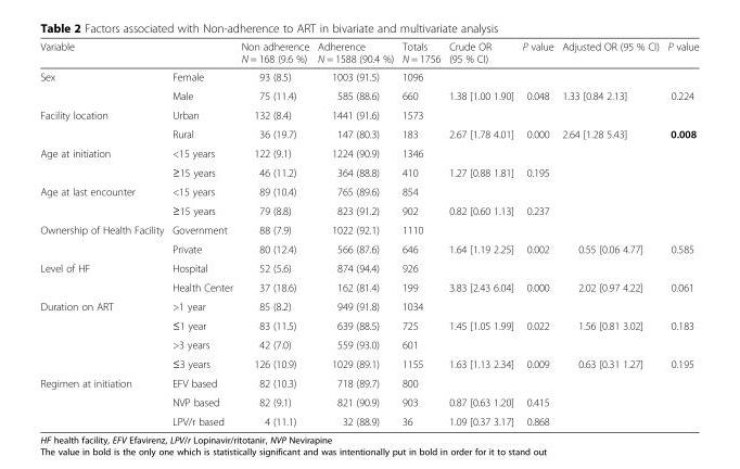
<table><thead><tr><td>Variable</td><td></td><td>Non adherence N = 168 (9.6 %)</td><td>Adherence N = 1588 (90.4 %)</td><td>Totals N = 1756</td><td>Crude OR (95 % CI)</td><td>P value</td><td>Adjusted OR (95 % CI)</td><td>P value</td></tr></thead><tbody><tr><td rowspan="2">Sex</td><td>Female</td><td>93 (8.5)</td><td>1003 (91.5)</td><td>1096</td><td></td><td></td><td></td><td></td></tr><tr><td>Male</td><td>75 (11.4)</td><td>585 (88.6)</td><td>660</td><td>1.38 [1.00 1.90]</td><td>0.048</td><td>1.33 [0.84 2.13]</td><td>0.224</td></tr><tr><td rowspan="2">Facility location</td><td>Urban</td><td>132 (8.4)</td><td>1441 (91.6)</td><td>1573</td><td></td><td></td><td></td><td></td></tr><tr><td>Rural</td><td>36 (19.7)</td><td>147 (80.3)</td><td>183</td><td>2.67 [1.78 4.01]</td><td>0.000</td><td>2.64 [1.28 5.43]</td><td>0.008</td></tr><tr><td rowspan="2">Age at initiation</td><td>&lt;15 years</td><td>122 (9.1)</td><td>1224 (90.9)</td><td>1346</td><td></td><td></td><td></td><td></td></tr><tr><td>≥15 years</td><td>46 (11.2)</td><td>364 (88.8)</td><td>410</td><td>1.27 [0.88 1.81]</td><td>0.195</td><td></td><td></td></tr><tr><td rowspan="2">Age at last encounter</td><td>&lt;15 years</td><td>89 (10.4)</td><td>765 (89.6)</td><td>854</td><td></td><td></td><td></td><td></td></tr><tr><td>≥15 years</td><td>79 (8.8)</td><td>823 (91.2)</td><td>902</td><td>0.82 [0.60 1.13]</td><td>0.237</td><td></td><td></td></tr><tr><td rowspan="2">Ownership of Health Facility</td><td>Government</td><td>88 (7.9)</td><td>1022 (92.1)</td><td>1110</td><td></td><td></td><td></td><td></td></tr><tr><td>Private</td><td>80 (12.4)</td><td>566 (87.6)</td><td>646</td><td>1.64 [1.19 2.25]</td><td>0.002</td><td>0.55 [0.06 4.77]</td><td>0.585</td></tr><tr><td rowspan="2">Level of HF</td><td>Hospital</td><td>52 (5.6)</td><td>874 (94.4)</td><td>926</td><td></td><td></td><td></td><td></td></tr><tr><td>Health Center</td><td>37 (18.6)</td><td>162 (81.4)</td><td>199</td><td>3.83 [2.43 6.04]</td><td>0.000</td><td>2.02 [0.97 4.22]</td><td>0.061</td></tr><tr><td rowspan="4">Duration on ART</td><td>&gt;1 year</td><td>85 (8.2)</td><td>949 (91.8)</td><td>1034</td><td></td><td></td><td></td><td></td></tr><tr><td>≤1 year</td><td>83 (11.5)</td><td>639 (88.5)</td><td>725</td><td>1.45 [1.05 1.99]</td><td>0.022</td><td>1.56 [0.81 3.02]</td><td>0.183</td></tr><tr><td>&gt;3 years</td><td>42 (7.0)</td><td>559 (93.0)</td><td>601</td><td></td><td></td><td></td><td></td></tr><tr><td>≤3 years</td><td>126 (10.9)</td><td>1029 (89.1)</td><td>1155</td><td>1.63 [1.13 2.34]</td><td>0.009</td><td>0.63 [0.31 1.27]</td><td>0.195</td></tr><tr><td rowspan="3">Regimen at initiation</td><td>EFV based</td><td>82 (10.3)</td><td>718 (89.7)</td><td>800</td><td></td><td></td><td></td><td></td></tr><tr><td>NVP based</td><td>82 (9.1)</td><td>821 (90.9)</td><td>903</td><td>0.87 [0.63 1.20]</td><td>0.415</td><td></td><td></td></tr><tr><td>LPV/r based</td><td>4 (11.1)</td><td>32 (88.9)</td><td>36</td><td>1.09 [0.37 3.17]</td><td>0.868</td><td></td><td></td></tr></tbody></table>